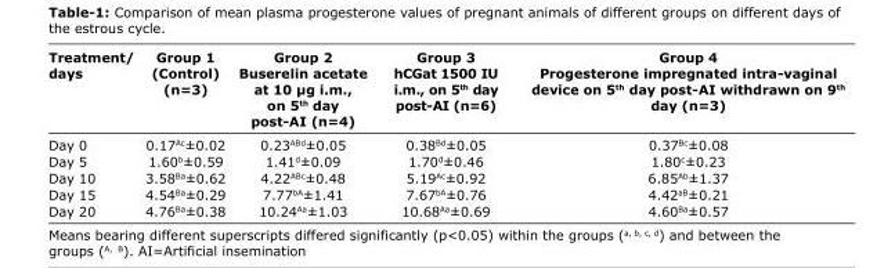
<table><thead><tr><td>Treatment/ days</td><td>Group 1 (Control) (n=3)</td><td>Group 2 Buserelin acetate at 10 μg i.m., on 5<sup>th</sup> day post-AI (n=4)</td><td>Group 3 hCGat 1500 IU i.m., on 5<sup>th</sup> day post-AI (n=6)</td><td>Group 4 Progesterone impregnated intra-vaginal device on 5<sup>th</sup> day post-AI withdrawn on 9<sup>th</sup> day (n=3)</td></tr></thead><tbody><tr><td>Day 0</td><td>0.17<sup>Ac</sup>±0.02</td><td>0.23<sup>ABd</sup>±0.05</td><td>0.38<sup>Bd</sup>±0.05</td><td>0.37<sup>Bc</sup>±0.08</td></tr><tr><td>Day 5</td><td>1.60<sup>b</sup>±0.59</td><td>1.41<sup>d</sup>±0.09</td><td>1.70<sup>d</sup>±0.46</td><td>1.80<sup>c</sup>±0.23</td></tr><tr><td>Day 10</td><td>3.58<sup>Ba</sup>±0.62</td><td>4.22<sup>ABc</sup>±0.48</td><td>5.19<sup>Ac</sup>±0.92</td><td>6.85<sup>Ab</sup>±1.37</td></tr><tr><td>Day 15</td><td>4.54<sup>Ba</sup>±0.29</td><td>7.77<sup>bA</sup>±1.41</td><td>7.67<sup>bA</sup>±0.76</td><td>4.42<sup>aB</sup>±0.21</td></tr><tr><td>Day 20</td><td>4.76<sup>Ba</sup>±0.38</td><td>10.24<sup>Aa</sup>±1.03</td><td>10.68<sup>Aa</sup>±0.69</td><td>4.60<sup>Ba</sup>±0.57</td></tr></tbody></table>